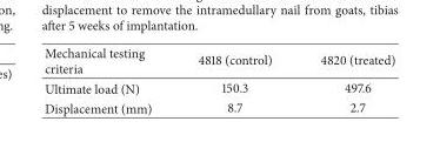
<table><thead><tr><td>Mechanical testing criteria</td><td>4818 (control)</td><td>4820 (treated)</td></tr></thead><tbody><tr><td>Ultimate load (N)</td><td>150.3</td><td>497.6</td></tr><tr><td>Displacement (mm)</td><td>8.7</td><td>2.7</td></tr></tbody></table>